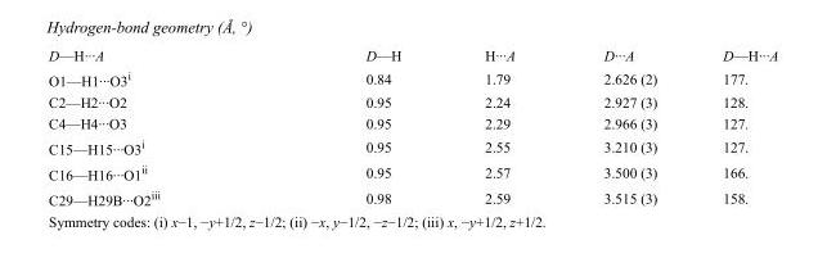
<table><tbody><tr><td>D—H···A</td><td>D—H</td><td>H···A</td><td>D···A</td><td>D—H···A</td></tr><tr><td>O1—H1···O3<sup>i</sup></td><td>0.84</td><td>1.79</td><td>2.626 (2)</td><td>177.</td></tr><tr><td>C2—H2···O2</td><td>0.95</td><td>2.24</td><td>2.927 (3)</td><td>128.</td></tr><tr><td>C4—H4···O3</td><td>0.95</td><td>2.29</td><td>2.966 (3)</td><td>127.</td></tr><tr><td>C15—H15···O3<sup>i</sup></td><td>0.95</td><td>2.55</td><td>3.210 (3)</td><td>127.</td></tr><tr><td>C16—H16···O1<sup>ii</sup></td><td>0.95</td><td>2.57</td><td>3.500 (3)</td><td>166.</td></tr><tr><td>C29—H29B···O2<sup>iii</sup></td><td>0.98</td><td>2.59</td><td>3.515 (3)</td><td>158.</td></tr></tbody></table>